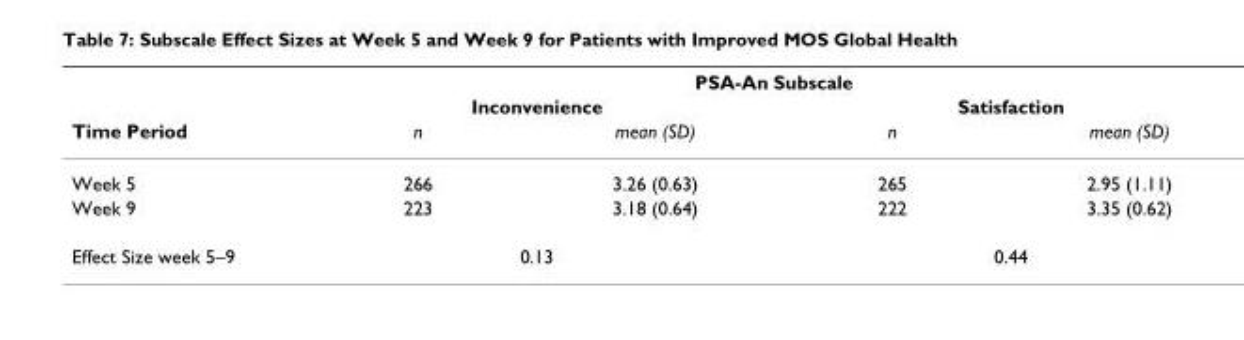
<table><thead><tr><td rowspan="3">Time Period</td><td colspan="4">PSA-An Subscale</td></tr><tr><td colspan="2">Inconvenience</td><td colspan="2">Satisfaction</td></tr><tr><td>n</td><td>mean (SD)</td><td>n</td><td>mean (SD)</td></tr></thead><tbody><tr><td>Week 5</td><td>266</td><td>3.26 (0.63)</td><td>265</td><td>2.95 (1.11)</td></tr><tr><td>Week 9</td><td>223</td><td>3.18 (0.64)</td><td>222</td><td>3.35 (0.62)</td></tr><tr><td>Effect Size week 5–9</td><td colspan="2">0.13</td><td colspan="2">0.44</td></tr></tbody></table>